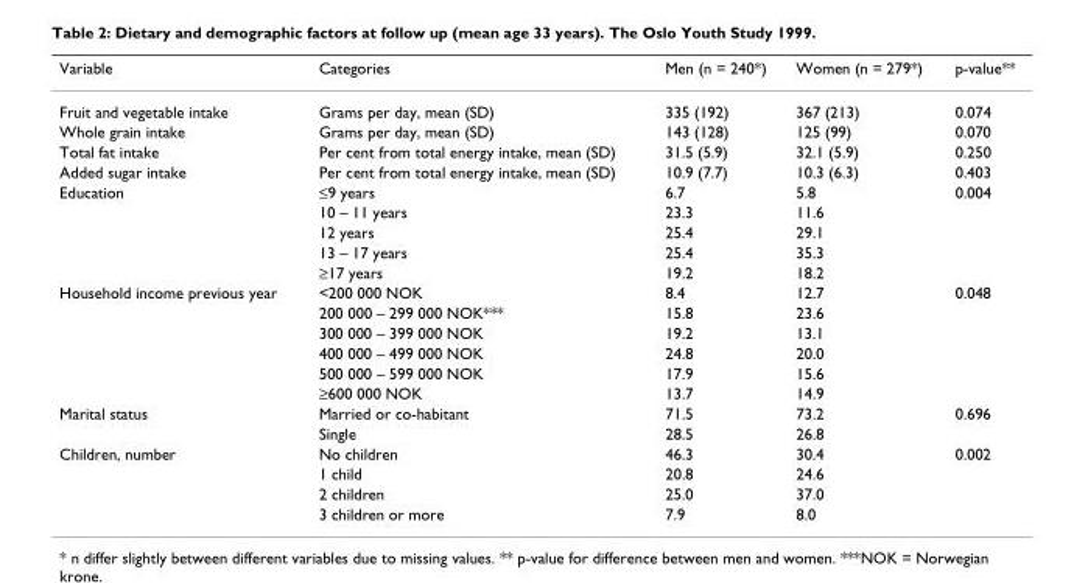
<table><thead><tr><td>Variable</td><td>Categories</td><td>Men (n = 240*)</td><td>Women (n = 279*)</td><td>p-value**</td></tr></thead><tbody><tr><td>Fruit and vegetable intake</td><td>Grams per day, mean (SD)</td><td>335 (192)</td><td>367 (213)</td><td>0.074</td></tr><tr><td>Whole grain intake</td><td>Grams per day, mean (SD)</td><td>143 (128)</td><td>125 (99)</td><td>0.070</td></tr><tr><td>Total fat intake</td><td>Per cent from total energy intake, mean (SD)</td><td>31.5 (5.9)</td><td>32.1 (5.9)</td><td>0.250</td></tr><tr><td>Added sugar intake</td><td>Per cent from total energy intake, mean (SD)</td><td>10.9 (7.7)</td><td>10.3 (6.3)</td><td>0.403</td></tr><tr><td rowspan="5">Education</td><td>≤9 years</td><td>6.7</td><td>5.8</td><td>0.004</td></tr><tr><td>10 – 11 years</td><td>23.3</td><td>11.6</td><td></td></tr><tr><td>12 years</td><td>25.4</td><td>29.1</td><td></td></tr><tr><td>13 – 17 years</td><td>25.4</td><td>35.3</td><td></td></tr><tr><td>≥17 years</td><td>19.2</td><td>18.2</td><td></td></tr><tr><td rowspan="6">Household income previous year</td><td>&lt;200 000 NOK</td><td>8.4</td><td>12.7</td><td>0.048</td></tr><tr><td>200 000 – 299 000 NOK***</td><td>15.8</td><td>23.6</td><td></td></tr><tr><td>300 000 – 399 000 NOK</td><td>19.2</td><td>13.1</td><td></td></tr><tr><td>400 000 – 499 000 NOK</td><td>24.8</td><td>20.0</td><td></td></tr><tr><td>500 000 – 599 000 NOK</td><td>17.9</td><td>15.6</td><td></td></tr><tr><td>≥600 000 NOK</td><td>13.7</td><td>14.9</td><td></td></tr><tr><td rowspan="2">Marital status</td><td>Married or co-habitant</td><td>71.5</td><td>73.2</td><td>0.696</td></tr><tr><td>Single</td><td>28.5</td><td>26.8</td><td></td></tr><tr><td rowspan="4">Children, number</td><td>No children</td><td>46.3</td><td>30.4</td><td>0.002</td></tr><tr><td>1 child</td><td>20.8</td><td>24.6</td><td></td></tr><tr><td>2 children</td><td>25.0</td><td>37.0</td><td></td></tr><tr><td>3 children or more</td><td>7.9</td><td>8.0</td><td></td></tr></tbody></table>